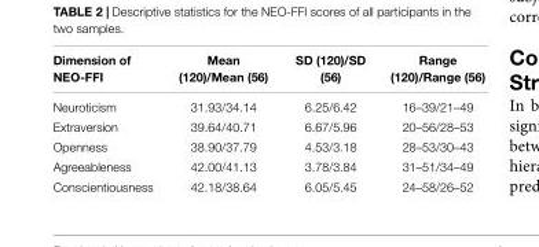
<table><thead><tr><td>Dimension of NEO-FFI</td><td>Mean (120)/Mean (56)</td><td>SD (120)/SD (56)</td><td>Range (120)/Range (56)</td></tr></thead><tbody><tr><td>Neuroticism</td><td>31.93/34.14</td><td>6.25/6.42</td><td>16–39/21–49</td></tr><tr><td>Extraversion</td><td>39.64/40.71</td><td>6.67/5.96</td><td>20–56/28–53</td></tr><tr><td>Openness</td><td>38.90/37.79</td><td>4.53/3.18</td><td>28–53/30–43</td></tr><tr><td>Agreeableness</td><td>42.00/41.13</td><td>3.78/3.84</td><td>31–51/34–49</td></tr><tr><td>Conscientiousness</td><td>42.18/38.64</td><td>6.05/5.45</td><td>24–58/26–52</td></tr></tbody></table>